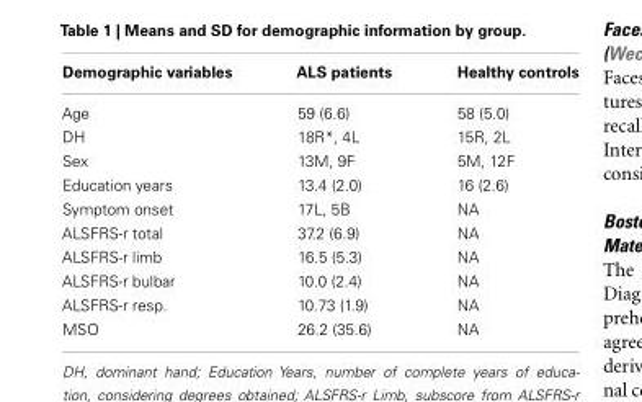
<table><thead><tr><td>Demographic variables</td><td>ALS patients</td><td>Healthy controls</td></tr></thead><tbody><tr><td>Age</td><td>59 (6.6)</td><td>58 (5.0)</td></tr><tr><td>DH</td><td>18R*, 4L</td><td>15R, 2L</td></tr><tr><td>Sex</td><td>13M, 9F</td><td>5M, 12F</td></tr><tr><td>Education years</td><td>13.4 (2.0)</td><td>16 (2.6)</td></tr><tr><td>Symptom onset</td><td>17L, 5B</td><td>NA</td></tr><tr><td>ALSFRS-r total</td><td>37.2 (6.9)</td><td>NA</td></tr><tr><td>ALSFRS-r limb</td><td>16.5 (5.3)</td><td>NA</td></tr><tr><td>ALSFRS-r bulbar</td><td>10.0 (2.4)</td><td>NA</td></tr><tr><td>ALSFRS-r resp.</td><td>10.73 (1.9)</td><td>NA</td></tr><tr><td>MSO</td><td>26.2 (35.6)</td><td>NA</td></tr></tbody></table>